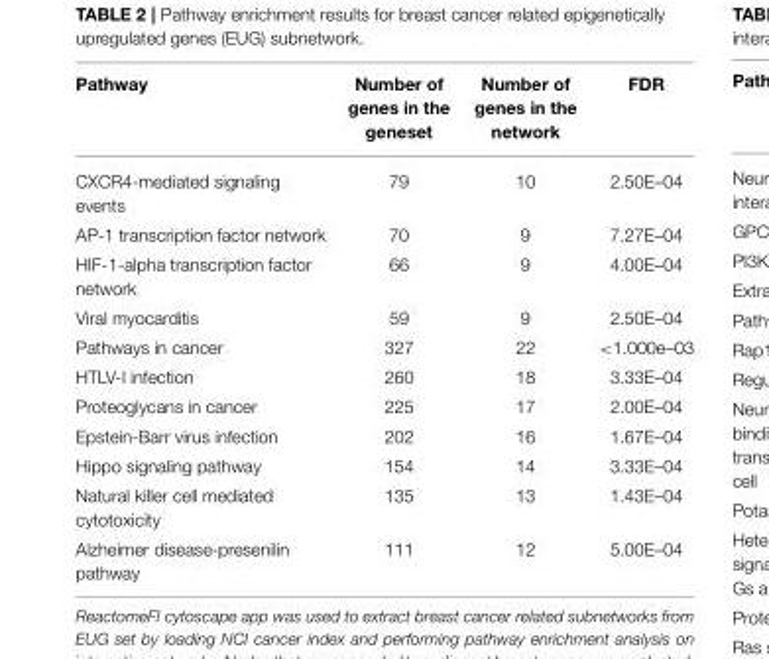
<table><thead><tr><td>Pathway</td><td>Number of genes in the geneset</td><td>Number of genes in the network</td><td>FDR</td></tr></thead><tbody><tr><td>CXCR4-mediated signaling events</td><td>79</td><td>10</td><td>2.50E–04</td></tr><tr><td>AP-1 transcription factor network</td><td>70</td><td>9</td><td>7.27E–04</td></tr><tr><td>HIF-1-alpha transcription factor network</td><td>66</td><td>9</td><td>4.00E–04</td></tr><tr><td>Viral myocarditis</td><td>59</td><td>9</td><td>2.50E–04</td></tr><tr><td>Pathways in cancer</td><td>327</td><td>22</td><td>&lt;1.000e–03</td></tr><tr><td>HTLV-I infection</td><td>260</td><td>18</td><td>3.33E–04</td></tr><tr><td>Proteoglycans in cancer</td><td>225</td><td>17</td><td>2.00E–04</td></tr><tr><td>Epstein-Barr virus infection</td><td>202</td><td>16</td><td>1.67E–04</td></tr><tr><td>Hippo signaling pathway</td><td>154</td><td>14</td><td>3.33E–04</td></tr><tr><td>Natural killer cell mediated cytotoxicity</td><td>135</td><td>13</td><td>1.43E–04</td></tr><tr><td>Alzheimer disease-presenilin pathway</td><td>111</td><td>12</td><td>5.00E–04</td></tr></tbody></table>